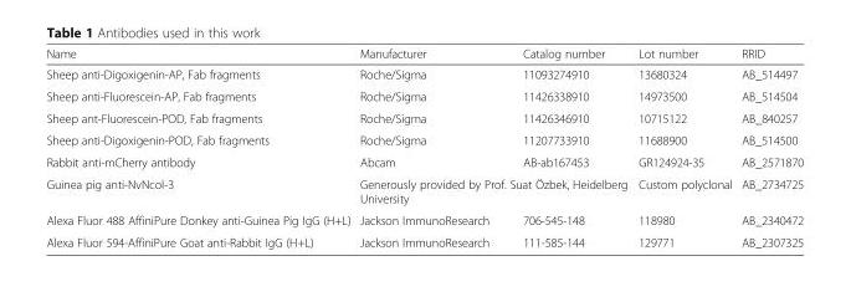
<table><thead><tr><td>Name</td><td>Manufacturer</td><td>Catalog number</td><td>Lot number</td><td>RRID</td></tr></thead><tbody><tr><td>Sheep anti-Digoxigenin-AP, Fab fragments</td><td>Roche/Sigma</td><td>11093274910</td><td>13680324</td><td>AB_514497</td></tr><tr><td>Sheep anti-Fluorescein-AP, Fab fragments</td><td>Roche/Sigma</td><td>11426338910</td><td>14973500</td><td>AB_514504</td></tr><tr><td>Sheep ant-Fluorescein-POD, Fab fragments</td><td>Roche/Sigma</td><td>11426346910</td><td>10715122</td><td>AB_840257</td></tr><tr><td>Sheep anti-Digoxigenin-POD, Fab fragments</td><td>Roche/Sigma</td><td>11207733910</td><td>11688900</td><td>AB_514500</td></tr><tr><td>Rabbit anti-mCherry antibody</td><td>Abcam</td><td>AB-ab167453</td><td>GR124924-35</td><td>AB_2571870</td></tr><tr><td>Guinea pig anti-NvNcol-3</td><td colspan="2">Generously provided by Prof. Suat Özbek, Heidelberg University</td><td>Custom polyclonal</td><td>AB_2734725</td></tr><tr><td>Alexa Fluor 488 AffiniPure Donkey anti-Guinea Pig IgG (H+L)</td><td>Jackson ImmunoResearch</td><td>706-545-148</td><td>118980</td><td>AB_2340472</td></tr><tr><td>Alexa Fluor 594-AffiniPure Goat anti-Rabbit IgG (H+L)</td><td>Jackson ImmunoResearch</td><td>111-585-144</td><td>129771</td><td>AB_2307325</td></tr></tbody></table>